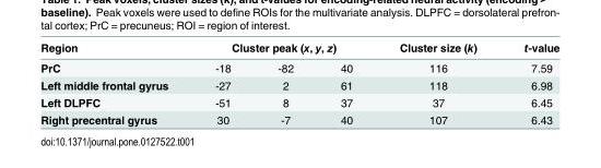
<table><thead><tr><td rowspan="2">Region PrC</td><td colspan="3">Cluster peak (x, y, z)</td><td rowspan="2">Cluster size (k) 116</td><td rowspan="2">t-value 7.59</td></tr><tr><td>-18</td><td>-82</td><td>40</td></tr></thead><tbody><tr><td>Left middle frontal gyrus</td><td>-27</td><td>2</td><td>61</td><td>118</td><td>6.98</td></tr><tr><td>Left DLPFC</td><td>-51</td><td>8</td><td>37</td><td>37</td><td>6.45</td></tr><tr><td>Right precentral gyrus</td><td>30</td><td>-7</td><td>40</td><td>107</td><td>6.43</td></tr></tbody></table>